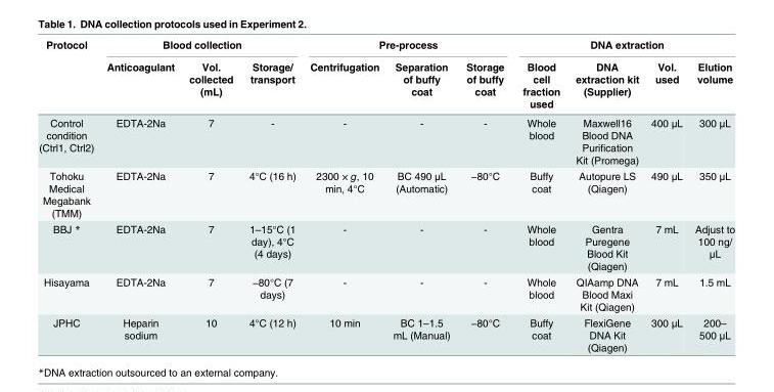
<table><thead><tr><td rowspan="2">Protocol</td><td colspan="3">Blood collection</td><td colspan="3">Pre-process</td><td colspan="4">DNA extraction</td></tr><tr><td>Anticoagulant</td><td>Vol. collected (mL)</td><td>Storage/ transport</td><td>Centrifugation</td><td>Separation of buffy coat</td><td>Storage of buffy coat</td><td>Blood cell fraction used</td><td>DNA extraction kit (Supplier)</td><td>Vol. used</td><td>Elution volume</td></tr></thead><tbody><tr><td>Control condition (Ctrl1, Ctrl2)</td><td>EDTA-2Na</td><td>7</td><td>-</td><td>-</td><td>-</td><td>-</td><td>Whole blood</td><td>Maxwell16 Blood DNA Purification Kit (Promega)</td><td>400 μL</td><td>300 μL</td></tr><tr><td>Tohoku Medical Megabank (TMM)</td><td>EDTA-2Na</td><td>7</td><td>4°C (16 h)</td><td>2300 × g, 10 min, 4°C</td><td>BC 490 μL (Automatic)</td><td>−80°C</td><td>Buffy coat</td><td>Autopure LS (Qiagen)</td><td>490 μL</td><td>350 μL</td></tr><tr><td>BBJ *</td><td>EDTA-2Na</td><td>7</td><td>1–15°C (1 day), 4°C (4 days)</td><td>-</td><td>-</td><td>-</td><td>Whole blood</td><td>Gentra Puregene Blood Kit (Qiagen)</td><td>7 mL</td><td>Adjust to 100 ng/ μL</td></tr><tr><td>Hisayama</td><td>EDTA-2Na</td><td>7</td><td>−80°C (7 days)</td><td>-</td><td>-</td><td>-</td><td>Whole blood</td><td>QIAamp DNA Blood Maxi Kit (Qiagen)</td><td>7 mL</td><td>1.5 mL</td></tr><tr><td>JPHC</td><td>Heparin sodium</td><td>10</td><td>4°C (12 h)</td><td>10 min</td><td>BC 1–1.5 mL (Manual)</td><td>−80°C</td><td>Buffy coat</td><td>FlexiGene DNA Kit (Qiagen)</td><td>300 μL</td><td>200– 500 μL</td></tr></tbody></table>